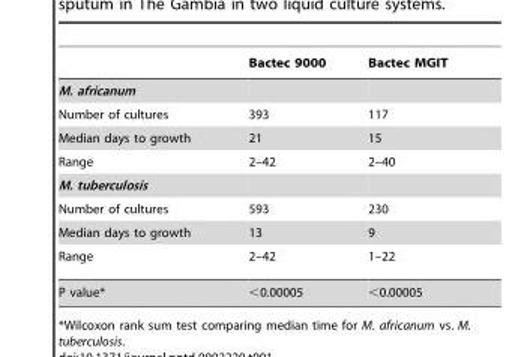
<table><thead><tr><td></td><td>Bactec 9000</td><td>Bactec MGIT</td></tr></thead><tbody><tr><td colspan="3">M. africanum</td></tr><tr><td>Number of cultures</td><td>393</td><td>117</td></tr><tr><td>Median days to growth</td><td>21</td><td>15</td></tr><tr><td>Range</td><td>2–42</td><td>2–40</td></tr><tr><td colspan="3">M. tuberculosis</td></tr><tr><td>Number of cultures</td><td>593</td><td>230</td></tr><tr><td>Median days to growth</td><td>13</td><td>9</td></tr><tr><td>Range</td><td>2–42</td><td>1–22</td></tr><tr><td>P value*</td><td>&lt;0.00005</td><td>&lt;0.00005</td></tr></tbody></table>